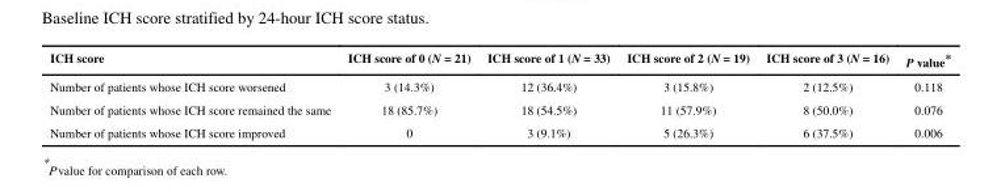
<table><thead><tr><td>ICH score</td><td>ICH score of 0 (N = 21)</td><td>ICH score of 1 (N = 33)</td><td>ICH score of 2 (N = 19)</td><td>ICH score of 3 (N = 16)</td><td>P value*</td></tr></thead><tbody><tr><td>Number of patients whose ICH score worsened</td><td>3 (14.3%)</td><td>12 (36.4%)</td><td>3 (15.8%)</td><td>2 (12.5%)</td><td>0.118</td></tr><tr><td>Number of patients whose ICH score remained the same</td><td>18 (85.7%)</td><td>18 (54.5%)</td><td>11 (57.9%)</td><td>8 (50.0%)</td><td>0.076</td></tr><tr><td>Number of patients whose ICH score improved</td><td>0</td><td>3 (9.1%)</td><td>5 (26.3%)</td><td>6 (37.5%)</td><td>0.006</td></tr></tbody></table>